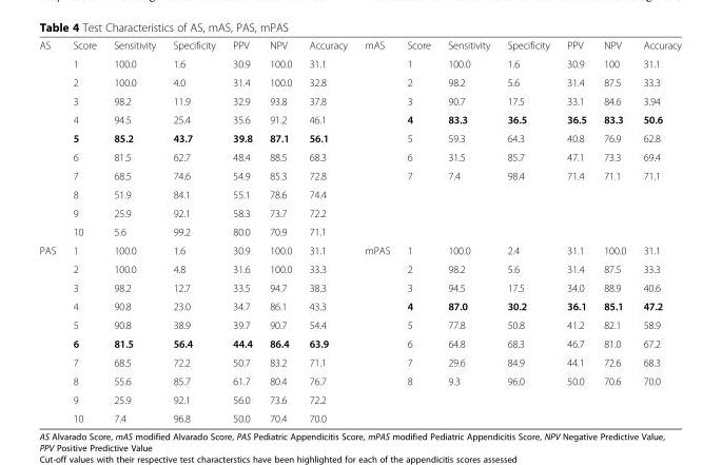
<table><tbody><tr><td rowspan="11">AS</td><td>Score</td><td>Sensitivity</td><td>Specificity</td><td>PPV</td><td>NPV</td><td>Accuracy</td><td rowspan="11">mAS</td><td>Score</td><td>Sensitivity</td><td>Specificity</td><td>PPV</td><td>NPV</td><td>Accuracy</td></tr><tr><td>1</td><td>100.0</td><td>1.6</td><td>30.9</td><td>100.0</td><td>31.1</td><td>1</td><td>100.0</td><td>1.6</td><td>30.9</td><td>100</td><td>31.1</td></tr><tr><td>2</td><td>100.0</td><td>4.0</td><td>31.4</td><td>100.0</td><td>32.8</td><td>2</td><td>98.2</td><td>5.6</td><td>31.4</td><td>87.5</td><td>33.3</td></tr><tr><td>3</td><td>98.2</td><td>11.9</td><td>32.9</td><td>93.8</td><td>37.8</td><td>3</td><td>90.7</td><td>17.5</td><td>33.1</td><td>84.6</td><td>3.94</td></tr><tr><td>4</td><td>94.5</td><td>25.4</td><td>35.6</td><td>91.2</td><td>46.1</td><td>4</td><td>83.3</td><td>36.5</td><td>36.5</td><td>83.3</td><td>50.6</td></tr><tr><td>5</td><td>85.2</td><td>43.7</td><td>39.8</td><td>87.1</td><td>56.1</td><td>5</td><td>59.3</td><td>64.3</td><td>40.8</td><td>76.9</td><td>62.8</td></tr><tr><td>6</td><td>81.5</td><td>62.7</td><td>48.4</td><td>88.5</td><td>68.3</td><td>6</td><td>31.5</td><td>85.7</td><td>47.1</td><td>73.3</td><td>69.4</td></tr><tr><td>7</td><td>68.5</td><td>74.6</td><td>54.9</td><td>85.3</td><td>72.8</td><td>7</td><td>7.4</td><td>98.4</td><td>71.4</td><td>71.1</td><td>71.1</td></tr><tr><td>8</td><td>51.9</td><td>84.1</td><td>55.1</td><td>78.6</td><td>74.4</td><td></td><td></td><td></td><td></td><td></td><td></td></tr><tr><td>9</td><td>25.9</td><td>92.1</td><td>58.3</td><td>73.7</td><td>72.2</td><td></td><td></td><td></td><td></td><td></td><td></td></tr><tr><td>10</td><td>5.6</td><td>99.2</td><td>80.0</td><td>70.9</td><td>71.1</td><td></td><td></td><td></td><td></td><td></td><td></td></tr><tr><td rowspan="10">PAS</td><td>1</td><td>100.0</td><td>1.6</td><td>30.9</td><td>100.0</td><td>31.1</td><td rowspan="10">mPAS</td><td>1</td><td>100.0</td><td>2.4</td><td>31.1</td><td>100.0</td><td>31.1</td></tr><tr><td>2</td><td>100.0</td><td>4.8</td><td>31.6</td><td>100.0</td><td>33.3</td><td>2</td><td>98.2</td><td>5.6</td><td>31.4</td><td>87.5</td><td>33.3</td></tr><tr><td>3</td><td>98.2</td><td>12.7</td><td>33.5</td><td>94.7</td><td>38.3</td><td>3</td><td>94.5</td><td>17.5</td><td>34.0</td><td>88.9</td><td>40.6</td></tr><tr><td>4</td><td>90.8</td><td>23.0</td><td>34.7</td><td>86.1</td><td>43.3</td><td>4</td><td>87.0</td><td>30.2</td><td>36.1</td><td>85.1</td><td>47.2</td></tr><tr><td>5</td><td>90.8</td><td>38.9</td><td>39.7</td><td>90.7</td><td>54.4</td><td>5</td><td>77.8</td><td>50.8</td><td>41.2</td><td>82.1</td><td>58.9</td></tr><tr><td>6</td><td>81.5</td><td>56.4</td><td>44.4</td><td>86.4</td><td>63.9</td><td>6</td><td>64.8</td><td>68.3</td><td>46.7</td><td>81.0</td><td>67.2</td></tr><tr><td>7</td><td>68.5</td><td>72.2</td><td>50.7</td><td>83.2</td><td>71.1</td><td>7</td><td>29.6</td><td>84.9</td><td>44.1</td><td>72.6</td><td>68.3</td></tr><tr><td>8</td><td>55.6</td><td>85.7</td><td>61.7</td><td>80.4</td><td>76.7</td><td>8</td><td>9.3</td><td>96.0</td><td>50.0</td><td>70.6</td><td>70.0</td></tr><tr><td>9</td><td>25.9</td><td>92.1</td><td>56.0</td><td>73.6</td><td>72.2</td><td></td><td></td><td></td><td></td><td></td><td></td></tr><tr><td>10</td><td>7.4</td><td>96.8</td><td>50.0</td><td>70.4</td><td>70.0</td><td></td><td></td><td></td><td></td><td></td><td></td></tr></tbody></table>